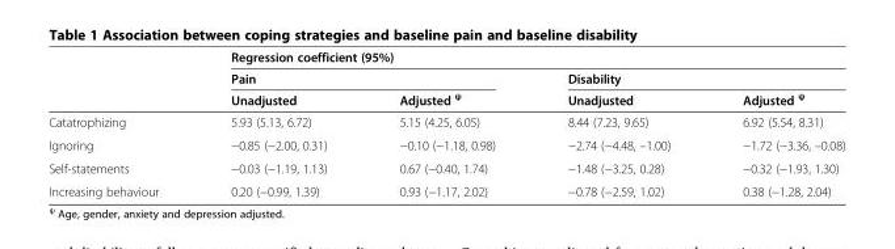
<table><thead><tr><td rowspan="3"></td><td colspan="4">Regression coefficient (95%)</td></tr><tr><td colspan="2">Pain</td><td colspan="2">Disability</td></tr><tr><td>Unadjusted</td><td>Adjusted <sup>ψ</sup></td><td>Unadjusted</td><td>Adjusted <sup>ψ</sup></td></tr></thead><tbody><tr><td>Catatrophizing</td><td>5.93 (5.13, 6.72)</td><td>5.15 (4.25, 6.05)</td><td>8.44 (7.23, 9.65)</td><td>6.92 (5.54, 8.31)</td></tr><tr><td>Ignoring</td><td>−0.85 (−2.00, 0.31)</td><td>−0.10 (−1.18, 0.98)</td><td>−2.74 (−4.48, –1.00)</td><td>−1.72 (−3.36, –0.08)</td></tr><tr><td>Self-statements</td><td>−0.03 (−1.19, 1.13)</td><td>0.67 (−0.40, 1.74)</td><td>−1.48 (−3.25, 0.28)</td><td>−0.32 (−1.93, 1.30)</td></tr><tr><td>Increasing behaviour</td><td>0.20 (−0.99, 1.39)</td><td>0.93 (−1.17, 2.02)</td><td>−0.78 (−2.59, 1.02)</td><td>0.38 (−1.28, 2.04)</td></tr></tbody></table>